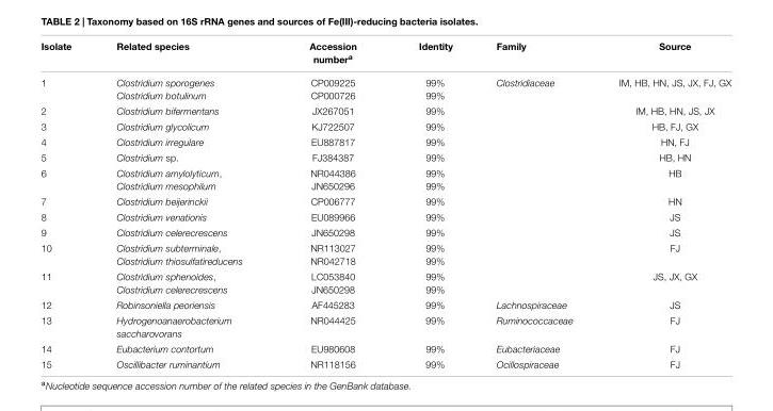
<table><thead><tr><td>Isolate</td><td>Related species</td><td>Accession number<sup>a</sup></td><td>Identity</td><td>Family</td><td>Source</td></tr></thead><tbody><tr><td>1</td><td>Clostridium sporogenes Clostridium botulinum</td><td>CP009225 CP000726</td><td>99% 99%</td><td>Clostridiaceae</td><td>IM, HB, HN, JS, JX, FJ, GX</td></tr><tr><td>2</td><td>Clostridium bifermentans</td><td>JX267051</td><td>99%</td><td></td><td>IM, HB, HN, JS, JX</td></tr><tr><td>3</td><td>Clostridium glycolicum</td><td>KJ722507</td><td>99%</td><td></td><td>HB, FJ, GX</td></tr><tr><td>4</td><td>Clostridium irregulare</td><td>EU887817</td><td>99%</td><td></td><td>HN, FJ</td></tr><tr><td>5</td><td>Clostridium sp.</td><td>FJ384387</td><td>99%</td><td></td><td>HB, HN</td></tr><tr><td>6</td><td>Clostridium amylolyticum, Clostridium mesophilum</td><td>NR044386 JN650296</td><td>99% 99%</td><td></td><td>HB</td></tr><tr><td>7</td><td>Clostridium beijerinckii</td><td>CP006777</td><td>99%</td><td></td><td>HN</td></tr><tr><td>8</td><td>Clostridium venationis</td><td>EU089966</td><td>99%</td><td></td><td>JS</td></tr><tr><td>9</td><td>Clostridium celerecrescens</td><td>JN650298</td><td>99%</td><td></td><td>JS</td></tr><tr><td>10</td><td>Clostridium subterminale, Clostridium thiosulfatireducens</td><td>NR113027 NR042718</td><td>99% 99%</td><td></td><td>FJ</td></tr><tr><td>11</td><td>Clostridium sphenoides, Clostridium celerecrescens</td><td>LC053840 JN650298</td><td>99% 99%</td><td></td><td>JS, JX, GX</td></tr><tr><td>12</td><td>Robinsoniella peoriensis</td><td>AF445283</td><td>99%</td><td>Lachnospiraceae</td><td>JS</td></tr><tr><td>13</td><td>Hydrogenoanaerobacterium saccharovorans</td><td>NR044425</td><td>99%</td><td>Ruminococcaceae</td><td>FJ</td></tr><tr><td>14</td><td>Eubacterium contortum</td><td>EU980608</td><td>99%</td><td>Eubacteriaceae</td><td>FJ</td></tr><tr><td>15</td><td>Oscillibacter ruminantium</td><td>NR118156</td><td>99%</td><td>Ocillospiraceae</td><td>FJ</td></tr></tbody></table>